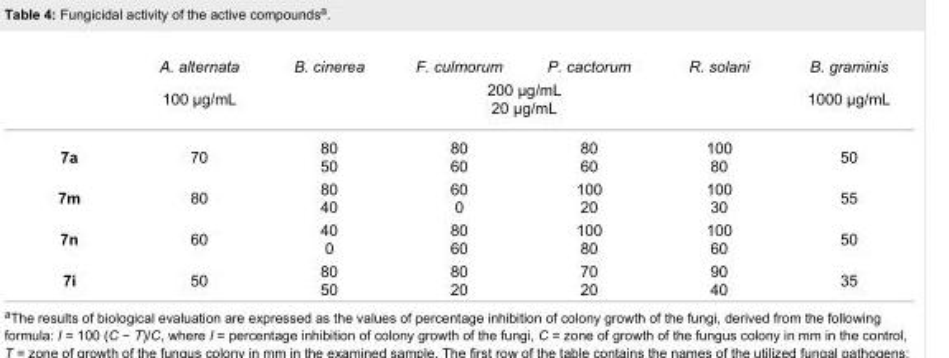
<table><thead><tr><td></td><td>A. alternata</td><td>B. cinerea</td><td>F. culmorum</td><td>P. cactorum</td><td>R. solani</td><td>B. graminis</td></tr></thead><tbody><tr><td></td><td>100 μg/mL</td><td colspan="4">200 μg/mL 20 μg/mL</td><td>1000 μg/mL</td></tr><tr><td>7a</td><td>70</td><td>80 50</td><td>80 60</td><td>80 60</td><td>100 80</td><td>50</td></tr><tr><td>7m</td><td>80</td><td>80 40</td><td>60 0</td><td>100 20</td><td>100 30</td><td>55</td></tr><tr><td>7n</td><td>60</td><td>40 0</td><td>80 60</td><td>100 80</td><td>100 60</td><td>50</td></tr><tr><td>7i</td><td>50</td><td>80 50</td><td>80 20</td><td>70 20</td><td>90 40</td><td>35</td></tr></tbody></table>